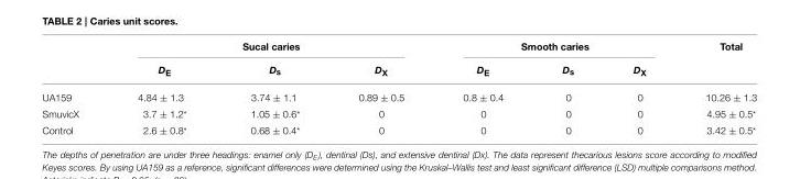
<table><thead><tr><td rowspan="2"></td><td colspan="3">Sucal caries</td><td colspan="3">Smooth caries</td><td rowspan="2">Total</td></tr><tr><td>D<sub>E</sub></td><td>D<sub>s</sub></td><td>D<sub>X</sub></td><td>D<sub>E</sub></td><td>D<sub>s</sub></td><td>D<sub>X</sub></td></tr></thead><tbody><tr><td>UA159</td><td>4.84 ± 1.3</td><td>3.74 ± 1.1</td><td>0.89 ± 0.5</td><td>0.8 ± 0.4</td><td>0</td><td>0</td><td>10.26 ± 1.3</td></tr><tr><td>SmuvicX</td><td>3.7 ± 1.2*</td><td>1.05 ± 0.6*</td><td>0</td><td>0</td><td>0</td><td>0</td><td>4.95 ± 0.5*</td></tr><tr><td>Control</td><td>2.6 ± 0.8*</td><td>0.68 ± 0.4*</td><td>0</td><td>0</td><td>0</td><td>0</td><td>3.42 ± 0.5*</td></tr></tbody></table>